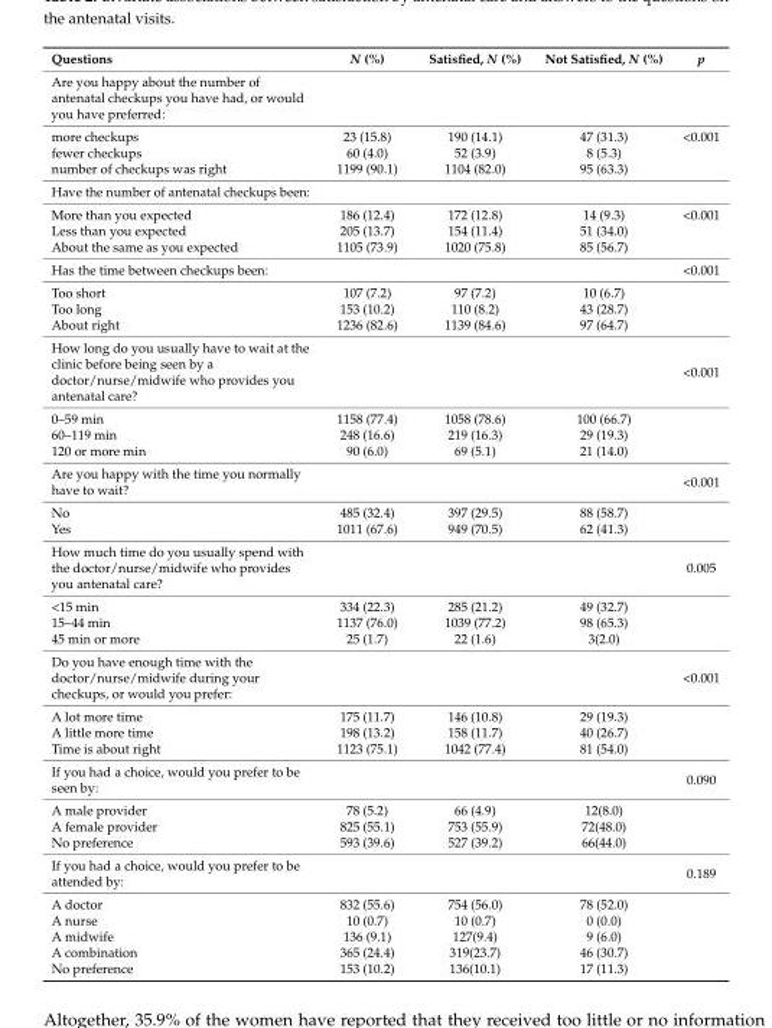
<table><thead><tr><td>Questions</td><td>N (%)</td><td>Satisfied, N (%)</td><td>Not Satisfied, N (%)</td><td>p</td></tr></thead><tbody><tr><td colspan="5">Are you happy about the number of antenatal checkups you have had, or would you have preferred:</td></tr><tr><td>more checkups</td><td>23 (15.8)</td><td>190 (14.1)</td><td>47 (31.3)</td><td>&lt;0.001</td></tr><tr><td>fewer checkups</td><td>60 (4.0)</td><td>52 (3.9)</td><td>8 (5.3)</td><td></td></tr><tr><td>number of checkups was right</td><td>1199 (90.1)</td><td>1104 (82.0)</td><td>95 (63.3)</td><td></td></tr><tr><td colspan="5">Have the number of antenatal checkups been:</td></tr><tr><td>More than you expected</td><td>186 (12.4)</td><td>172 (12.8)</td><td>14 (9.3)</td><td>&lt;0.001</td></tr><tr><td>Less than you expected</td><td>205 (13.7)</td><td>154 (11.4)</td><td>51 (34.0)</td><td></td></tr><tr><td>About the same as you expected</td><td>1105 (73.9)</td><td>1020 (75.8)</td><td>85 (56.7)</td><td></td></tr><tr><td>Has the time between checkups been:</td><td></td><td></td><td></td><td>&lt;0.001</td></tr><tr><td>Too short</td><td>107 (7.2)</td><td>97 (7.2)</td><td>10 (6.7)</td><td></td></tr><tr><td>Too long</td><td>153 (10.2)</td><td>110 (8.2)</td><td>43 (28.7)</td><td></td></tr><tr><td>About right</td><td>1236 (82.6)</td><td>1139 (84.6)</td><td>97 (64.7)</td><td></td></tr><tr><td>How long do you usually have to wait at the clinic before being seen by a doctor/nurse/midwife who provides you antenatal care?</td><td></td><td></td><td></td><td>&lt;0.001</td></tr><tr><td>0–59 min</td><td>1158 (77.4)</td><td>1058 (78.6)</td><td>100 (66.7)</td><td></td></tr><tr><td>60–119 min</td><td>248 (16.6)</td><td>219 (16.3)</td><td>29 (19.3)</td><td></td></tr><tr><td>120 or more min</td><td>90 (6.0)</td><td>69 (5.1)</td><td>21 (14.0)</td><td></td></tr><tr><td>Are you happy with the time you normally have to wait?</td><td></td><td></td><td></td><td>&lt;0.001</td></tr><tr><td>No</td><td>485 (32.4)</td><td>397 (29.5)</td><td>88 (58.7)</td><td></td></tr><tr><td>Yes</td><td>1011 (67.6)</td><td>949 (70.5)</td><td>62 (41.3)</td><td></td></tr><tr><td>How much time do you usually spend with the doctor/nurse/midwife who provides you antenatal care?</td><td></td><td></td><td></td><td>0.005</td></tr><tr><td>&lt;15 min</td><td>334 (22.3)</td><td>285 (21.2)</td><td>49 (32.7)</td><td></td></tr><tr><td>15–44 min</td><td>1137 (76.0)</td><td>1039 (77.2)</td><td>98 (65.3)</td><td></td></tr><tr><td>45 min or more</td><td>25 (1.7)</td><td>22 (1.6)</td><td>3(2.0)</td><td></td></tr><tr><td>Do you have enough time with the doctor/nurse/midwife during your checkups, or would you prefer:</td><td></td><td></td><td></td><td>&lt;0.001</td></tr><tr><td>A lot more time</td><td>175 (11.7)</td><td>146 (10.8)</td><td>29 (19.3)</td><td></td></tr><tr><td>A little more time</td><td>198 (13.2)</td><td>158 (11.7)</td><td>40 (26.7)</td><td></td></tr><tr><td>Time is about right</td><td>1123 (75.1)</td><td>1042 (77.4)</td><td>81 (54.0)</td><td></td></tr><tr><td>If you had a choice, would you prefer to be seen by:</td><td></td><td></td><td></td><td>0.090</td></tr><tr><td>A male provider</td><td>78 (5.2)</td><td>66 (4.9)</td><td>12(8.0)</td><td></td></tr><tr><td>A female provider</td><td>825 (55.1)</td><td>753 (55.9)</td><td>72(48.0)</td><td></td></tr><tr><td>No preference</td><td>593 (39.6)</td><td>527 (39.2)</td><td>66(44.0)</td><td></td></tr><tr><td>If you had a choice, would you prefer to be attended by:</td><td></td><td></td><td></td><td>0.189</td></tr><tr><td>A doctor</td><td>832 (55.6)</td><td>754 (56.0)</td><td>78 (52.0)</td><td></td></tr><tr><td>A nurse</td><td>10 (0.7)</td><td>10 (0.7)</td><td>0 (0.0)</td><td></td></tr><tr><td>A midwife</td><td>136 (9.1)</td><td>127(9.4)</td><td>9 (6.0)</td><td></td></tr><tr><td>A combination</td><td>365 (24.4)</td><td>319(23.7)</td><td>46 (30.7)</td><td></td></tr><tr><td>No preference</td><td>153 (10.2)</td><td>136(10.1)</td><td>17 (11.3)</td><td></td></tr></tbody></table>